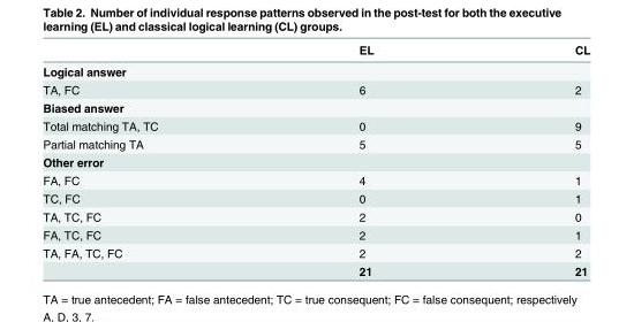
<table><thead><tr><td></td><td>EL</td><td>CL</td></tr></thead><tbody><tr><td colspan="3">Logical answer</td></tr><tr><td>TA, FC</td><td>6</td><td>2</td></tr><tr><td colspan="3">Biased answer</td></tr><tr><td>Total matching TA, TC</td><td>0</td><td>9</td></tr><tr><td>Partial matching TA</td><td>5</td><td>5</td></tr><tr><td colspan="3">Other error</td></tr><tr><td>FA, FC</td><td>4</td><td>1</td></tr><tr><td>TC, FC</td><td>0</td><td>1</td></tr><tr><td>TA, TC, FC</td><td>2</td><td>0</td></tr><tr><td>FA, TC, FC</td><td>2</td><td>1</td></tr><tr><td rowspan="2">TA, FA, TC, FC</td><td>2</td><td>2</td></tr><tr><td>21</td><td>21</td></tr></tbody></table>